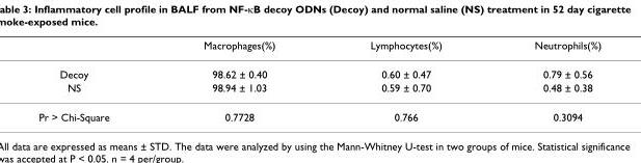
<table><thead><tr><td></td><td>Macrophages(%)</td><td>Lymphocytes(%)</td><td>Neutrophils(%)</td></tr></thead><tbody><tr><td>Decoy</td><td>98.62 ± 0.40</td><td>0.60 ± 0.47</td><td>0.79 ± 0.56</td></tr><tr><td>NS</td><td>98.94 ± 1.03</td><td>0.59 ± 0.70</td><td>0.48 ± 0.38</td></tr><tr><td>Pr &gt; Chi-Square</td><td>0.7728</td><td>0.766</td><td>0.3094</td></tr></tbody></table>